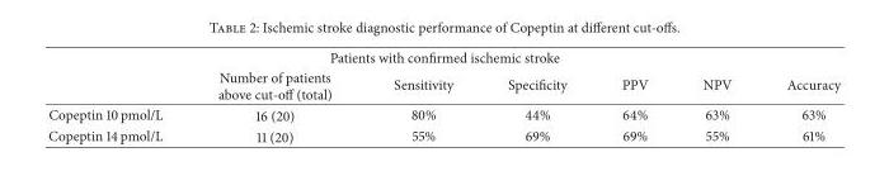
<table><thead><tr><td colspan="7">Patients with confirmed ischemic stroke</td></tr><tr><td></td><td>Number of patients above cut-off (total)</td><td>Sensitivity</td><td>Specificity</td><td>PPV</td><td>NPV</td><td>Accuracy</td></tr></thead><tbody><tr><td>Copeptin 10 pmol/L</td><td>16 (20)</td><td>80%</td><td>44%</td><td>64%</td><td>63%</td><td>63%</td></tr><tr><td>Copeptin 14 pmol/L</td><td>11 (20)</td><td>55%</td><td>69%</td><td>69%</td><td>55%</td><td>61%</td></tr></tbody></table>